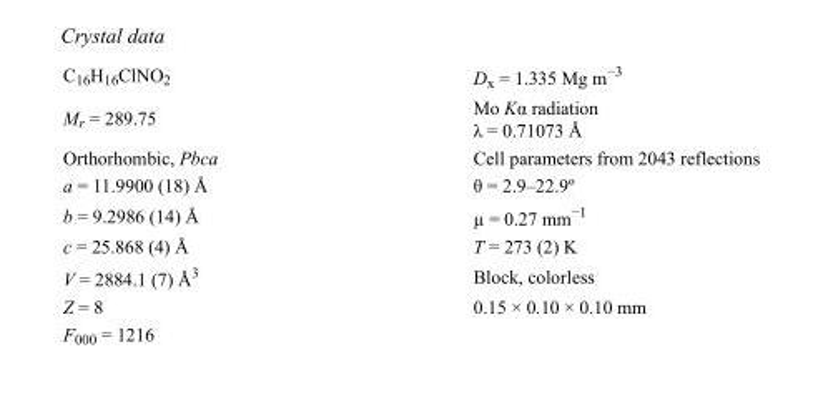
<table><tbody><tr><td>C<sub>16</sub>H<sub>16</sub>ClNO<sub>2</sub></td><td>D<sub>x</sub> = 1.335 Mg m<sup>−3</sup></td></tr><tr><td>M<sub>r</sub> = 289.75</td><td>Mo Kα radiation λ = 0.71073 Å</td></tr><tr><td>Orthorhombic, Pbca</td><td>Cell parameters from 2043 reflections</td></tr><tr><td>a = 11.9900 (18) Å</td><td>θ = 2.9–22.9º</td></tr><tr><td>b = 9.2986 (14) Å</td><td>µ = 0.27 mm<sup>−1</sup></td></tr><tr><td>c = 25.868 (4) Å</td><td>T = 273 (2) K</td></tr><tr><td>V = 2884.1 (7) Å<sup>3</sup></td><td>Block, colorless</td></tr><tr><td>Z = 8</td><td>0.15 × 0.10 × 0.10 mm</td></tr><tr><td>F<sub>000</sub> = 1216</td><td></td></tr></tbody></table>